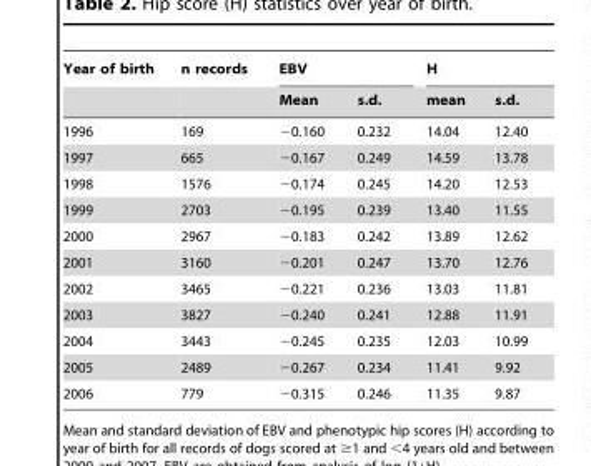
<table><thead><tr><td rowspan="2">Year of birth</td><td rowspan="2">n records</td><td colspan="2">EBV</td><td colspan="2">H</td></tr><tr><td>Mean</td><td>s.d.</td><td>mean</td><td>s.d.</td></tr></thead><tbody><tr><td>1996</td><td>169</td><td>−0.160</td><td>0.232</td><td>14.04</td><td>12.40</td></tr><tr><td>1997</td><td>665</td><td>−0.167</td><td>0.249</td><td>14.59</td><td>13.78</td></tr><tr><td>1998</td><td>1576</td><td>−0.174</td><td>0.245</td><td>14.20</td><td>12.53</td></tr><tr><td>1999</td><td>2703</td><td>−0.195</td><td>0.239</td><td>13.40</td><td>11.55</td></tr><tr><td>2000</td><td>2967</td><td>−0.183</td><td>0.242</td><td>13.89</td><td>12.62</td></tr><tr><td>2001</td><td>3160</td><td>−0.201</td><td>0.247</td><td>13.70</td><td>12.76</td></tr><tr><td>2002</td><td>3465</td><td>−0.221</td><td>0.236</td><td>13.03</td><td>11.81</td></tr><tr><td>2003</td><td>3827</td><td>−0.240</td><td>0.241</td><td>12.88</td><td>11.91</td></tr><tr><td>2004</td><td>3443</td><td>−0.245</td><td>0.235</td><td>12.03</td><td>10.99</td></tr><tr><td>2005</td><td>2489</td><td>−0.267</td><td>0.234</td><td>11.41</td><td>9.92</td></tr><tr><td>2006</td><td>779</td><td>−0.315</td><td>0.246</td><td>11.35</td><td>9.87</td></tr></tbody></table>